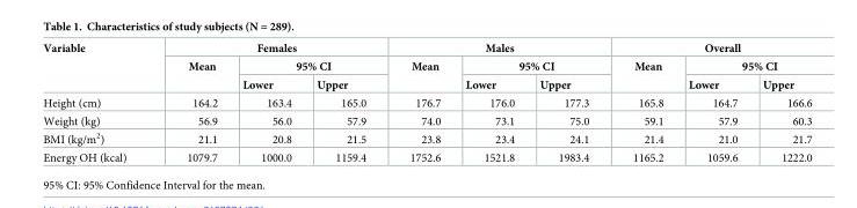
<table><thead><tr><td rowspan="3">Variable</td><td colspan="3">Females</td><td colspan="3">Males</td><td colspan="3">Overall</td></tr><tr><td rowspan="2">Mean</td><td colspan="2">95% CI</td><td rowspan="2">Mean</td><td colspan="2">95% CI</td><td rowspan="2">Mean</td><td colspan="2">95% CI</td></tr><tr><td>Lower</td><td>Upper</td><td>Lower</td><td>Upper</td><td>Lower</td><td>Upper</td></tr></thead><tbody><tr><td>Height (cm)</td><td>164.2</td><td>163.4</td><td>165.0</td><td>176.7</td><td>176.0</td><td>177.3</td><td>165.8</td><td>164.7</td><td>166.6</td></tr><tr><td>Weight (kg)</td><td>56.9</td><td>56.0</td><td>57.9</td><td>74.0</td><td>73.1</td><td>75.0</td><td>59.1</td><td>57.9</td><td>60.3</td></tr><tr><td>BMI (kg/m<sup>2</sup>)</td><td>21.1</td><td>20.8</td><td>21.5</td><td>23.8</td><td>23.4</td><td>24.1</td><td>21.4</td><td>21.0</td><td>21.7</td></tr><tr><td>Energy OH (kcal)</td><td>1079.7</td><td>1000.0</td><td>1159.4</td><td>1752.6</td><td>1521.8</td><td>1983.4</td><td>1165.2</td><td>1059.6</td><td>1222.0</td></tr></tbody></table>